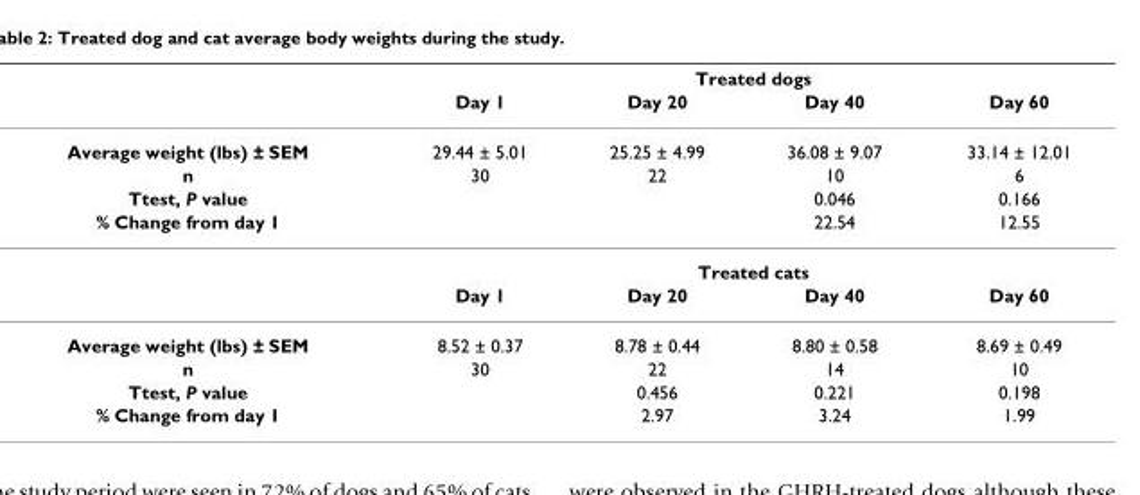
<table><thead><tr><td rowspan="2"></td><td colspan="4">Treated dogs</td></tr><tr><td>Day 1</td><td>Day 20</td><td>Day 40</td><td>Day 60</td></tr></thead><tbody><tr><td>Average weight (lbs) ± SEM</td><td>29.44 ± 5.01</td><td>25.25 ± 4.99</td><td>36.08 ± 9.07</td><td>33.14 ± 12.01</td></tr><tr><td>n</td><td>30</td><td>22</td><td>10</td><td>6</td></tr><tr><td>Ttest, P value</td><td></td><td></td><td>0.046</td><td>0.166</td></tr><tr><td rowspan="3">% Change from day 1</td><td></td><td></td><td>22.54</td><td>12.55</td></tr><tr><td colspan="4">Treated cats</td></tr><tr><td>Day 1</td><td>Day 20</td><td>Day 40</td><td>Day 60</td></tr><tr><td>Average weight (lbs) ± SEM</td><td>8.52 ± 0.37</td><td>8.78 ± 0.44</td><td>8.80 ± 0.58</td><td>8.69 ± 0.49</td></tr><tr><td>n</td><td>30</td><td>22</td><td>14</td><td>10</td></tr><tr><td>Ttest, P value</td><td></td><td>0.456</td><td>0.221</td><td>0.198</td></tr><tr><td>% Change from day 1</td><td></td><td>2.97</td><td>3.24</td><td>1.99</td></tr></tbody></table>